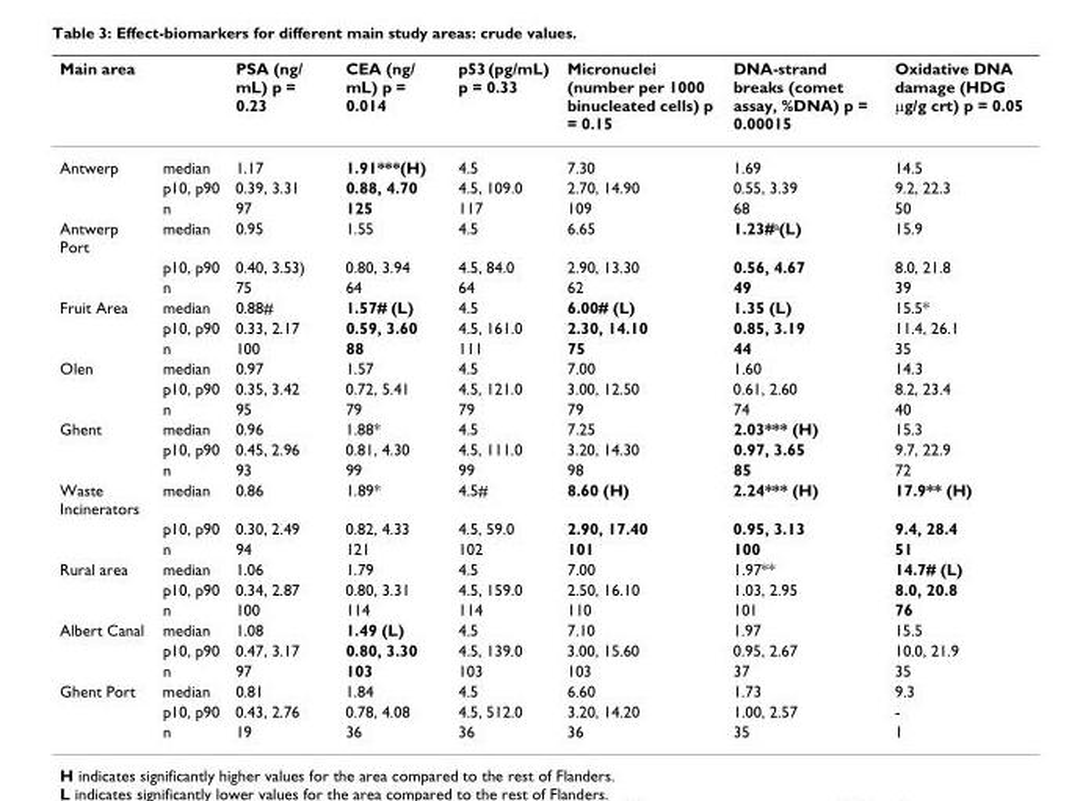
<table><thead><tr><td>Main area</td><td></td><td>PSA (ng/ mL) p = 0.23</td><td>CEA (ng/ mL) p = 0.014</td><td>p53 (pg/mL) p = 0.33</td><td>Micronuclei (number per 1000 binucleated cells) p = 0.15</td><td>DNA-strand breaks (comet assay, %DNA) p = 0.00015</td><td>Oxidative DNA damage (HDG μg/g crt) p = 0.05</td></tr></thead><tbody><tr><td rowspan="3">Antwerp</td><td>median</td><td>1.17</td><td>1.91***(H)</td><td>4.5</td><td>7.30</td><td>1.69</td><td>14.5</td></tr><tr><td>p10, p90</td><td>0.39, 3.31</td><td>0.88, 4.70</td><td>4.5, 109.0</td><td>2.70, 14.90</td><td>0.55, 3.39</td><td>9.2, 22.3</td></tr><tr><td>n</td><td>97</td><td>125</td><td>117</td><td>109</td><td>68</td><td>50</td></tr><tr><td rowspan="3">Antwerp Port</td><td>median</td><td>0.95</td><td>1.55</td><td>4.5</td><td>6.65</td><td>1.23#<sup>a</sup>(L)</td><td>15.9</td></tr><tr><td>p10, p90</td><td>0.40, 3.53)</td><td>0.80, 3.94</td><td>4.5, 84.0</td><td>2.90, 13.30</td><td>0.56, 4.67</td><td>8.0, 21.8</td></tr><tr><td>n</td><td>75</td><td>64</td><td>64</td><td>62</td><td>49</td><td>39</td></tr><tr><td rowspan="3">Fruit Area</td><td>median</td><td>0.88#</td><td>1.57# (L)</td><td>4.5</td><td>6.00# (L)</td><td>1.35 (L)</td><td>15.5*</td></tr><tr><td>p10, p90</td><td>0.33, 2.17</td><td>0.59, 3.60</td><td>4.5, 161.0</td><td>2.30, 14.10</td><td>0.85, 3.19</td><td>11.4, 26.1</td></tr><tr><td>n</td><td>100</td><td>88</td><td>111</td><td>75</td><td>44</td><td>35</td></tr><tr><td rowspan="3">Olen</td><td>median</td><td>0.97</td><td>1.57</td><td>4.5</td><td>7.00</td><td>1.60</td><td>14.3</td></tr><tr><td>p10, p90</td><td>0.35, 3.42</td><td>0.72, 5.41</td><td>4.5, 121.0</td><td>3.00, 12.50</td><td>0.61, 2.60</td><td>8.2, 23.4</td></tr><tr><td>n</td><td>95</td><td>79</td><td>79</td><td>79</td><td>74</td><td>40</td></tr><tr><td rowspan="3">Ghent</td><td>median</td><td>0.96</td><td>1.88*</td><td>4.5</td><td>7.25</td><td>2.03*** (H)</td><td>15.3</td></tr><tr><td>p10, p90</td><td>0.45, 2.96</td><td>0.81, 4.30</td><td>4.5, 111.0</td><td>3.20, 14.30</td><td>0.97, 3.65</td><td>9.7, 22.9</td></tr><tr><td>n</td><td>93</td><td>99</td><td>99</td><td>98</td><td>85</td><td>72</td></tr><tr><td rowspan="3">Waste Incinerators</td><td>median</td><td>0.86</td><td>1.89*</td><td>4.5#</td><td>8.60 (H)</td><td>2.24*** (H)</td><td>17.9** (H)</td></tr><tr><td>p10, p90</td><td>0.30, 2.49</td><td>0.82, 4.33</td><td>4.5, 59.0</td><td>2.90, 17.40</td><td>0.95, 3.13</td><td>9.4, 28.4</td></tr><tr><td>n</td><td>94</td><td>121</td><td>102</td><td>101</td><td>100</td><td>51</td></tr><tr><td rowspan="3">Rural area</td><td>median</td><td>1.06</td><td>1.79</td><td>4.5</td><td>7.00</td><td>1.97**</td><td>14.7# (L)</td></tr><tr><td>p10, p90</td><td>0.34, 2.87</td><td>0.80, 3.31</td><td>4.5, 159.0</td><td>2.50, 16.10</td><td>1.03, 2.95</td><td>8.0, 20.8</td></tr><tr><td>n</td><td>100</td><td>114</td><td>114</td><td>110</td><td>101</td><td>76</td></tr><tr><td rowspan="3">Albert Canal</td><td>median</td><td>1.08</td><td>1.49 (L)</td><td>4.5</td><td>7.10</td><td>1.97</td><td>15.5</td></tr><tr><td>p10, p90</td><td>0.47, 3.17</td><td>0.80, 3.30</td><td>4.5, 139.0</td><td>3.00, 15.60</td><td>0.95, 2.67</td><td>10.0, 21.9</td></tr><tr><td>n</td><td>97</td><td>103</td><td>103</td><td>103</td><td>37</td><td>35</td></tr><tr><td rowspan="3">Ghent Port</td><td>median</td><td>0.81</td><td>1.84</td><td>4.5</td><td>6.60</td><td>1.73</td><td>9.3</td></tr><tr><td>p10, p90</td><td>0.43, 2.76</td><td>0.78, 4.08</td><td>4.5, 512.0</td><td>3.20, 14.20</td><td>1.00, 2.57</td><td>-</td></tr><tr><td>n</td><td>19</td><td>36</td><td>36</td><td>36</td><td>35</td><td>1</td></tr></tbody></table>